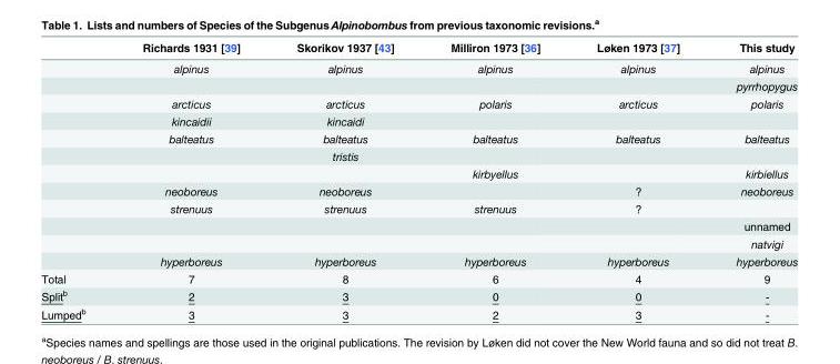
<table><thead><tr><td></td><td>Richards 1931 [39]</td><td>Skorikov 1937 [43]</td><td>Milliron 1973 [36]</td><td>Løken 1973 [37]</td><td>This study</td></tr></thead><tbody><tr><td></td><td>alpinus</td><td>alpinus</td><td>alpinus</td><td>alpinus</td><td>alpinus</td></tr><tr><td></td><td></td><td></td><td></td><td></td><td>pyrrhopygus</td></tr><tr><td></td><td>arcticus</td><td>arcticus</td><td>polaris</td><td>arcticus</td><td>polaris</td></tr><tr><td></td><td>kincaidii</td><td>kincaidi</td><td></td><td></td><td></td></tr><tr><td></td><td>balteatus</td><td>balteatus</td><td>balteatus</td><td>balteatus</td><td>balteatus</td></tr><tr><td></td><td></td><td>tristis</td><td></td><td></td><td></td></tr><tr><td></td><td></td><td></td><td>kirbyellus</td><td></td><td>kirbiellus</td></tr><tr><td></td><td>neoboreus</td><td>neoboreus</td><td></td><td>?</td><td>neoboreus</td></tr><tr><td></td><td>strenuus</td><td>strenuus</td><td>strenuus</td><td>?</td><td></td></tr><tr><td></td><td></td><td></td><td></td><td></td><td>unnamed</td></tr><tr><td></td><td></td><td></td><td></td><td></td><td>natvigi</td></tr><tr><td></td><td>hyperboreus</td><td>hyperboreus</td><td>hyperboreus</td><td>hyperboreus</td><td>hyperboreus</td></tr><tr><td>Total</td><td>7</td><td>8</td><td>6</td><td>4</td><td>9</td></tr><tr><td>Split<sup>b</sup></td><td>2</td><td>3</td><td>0</td><td>0</td><td>-</td></tr><tr><td>Lumped<sup>b</sup></td><td>3</td><td>3</td><td>2</td><td>3</td><td>-</td></tr></tbody></table>